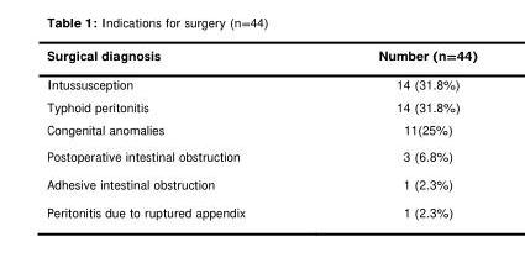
<table><thead><tr><td>Surgical diagnosis</td><td>Number (n=44)</td></tr></thead><tbody><tr><td>Intussusception</td><td>14 (31.8%)</td></tr><tr><td>Typhoid peritonitis</td><td>14 (31.8%)</td></tr><tr><td>Congenital anomalies</td><td>11(25%)</td></tr><tr><td>Postoperative intestinal obstruction</td><td>3 (6.8%)</td></tr><tr><td>Adhesive intestinal obstruction</td><td>1 (2.3%)</td></tr><tr><td>Peritonitis due to ruptured appendix</td><td>1 (2.3%)</td></tr></tbody></table>